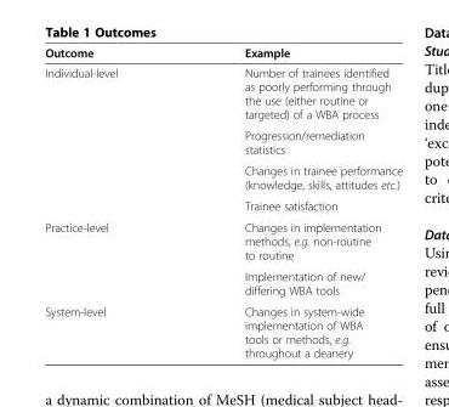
<table><thead><tr><td>Outcome</td><td>Example</td></tr></thead><tbody><tr><td rowspan="4">Individual-level</td><td>Number of trainees identified as poorly performing through the use (either routine or targeted) of a WBA process</td></tr><tr><td>Progression/remediation statistics</td></tr><tr><td>Changes in trainee performance (knowledge, skills, attitudes etc.)</td></tr><tr><td>Trainee satisfaction</td></tr><tr><td rowspan="2">Practice-level</td><td>Changes in implementation methods, e.g. non-routine to routine</td></tr><tr><td>Implementation of new/ differing WBA tools</td></tr><tr><td>System-level</td><td>Changes in system-wide implementation of WBA tools or methods, e.g. throughout a deanery</td></tr></tbody></table>